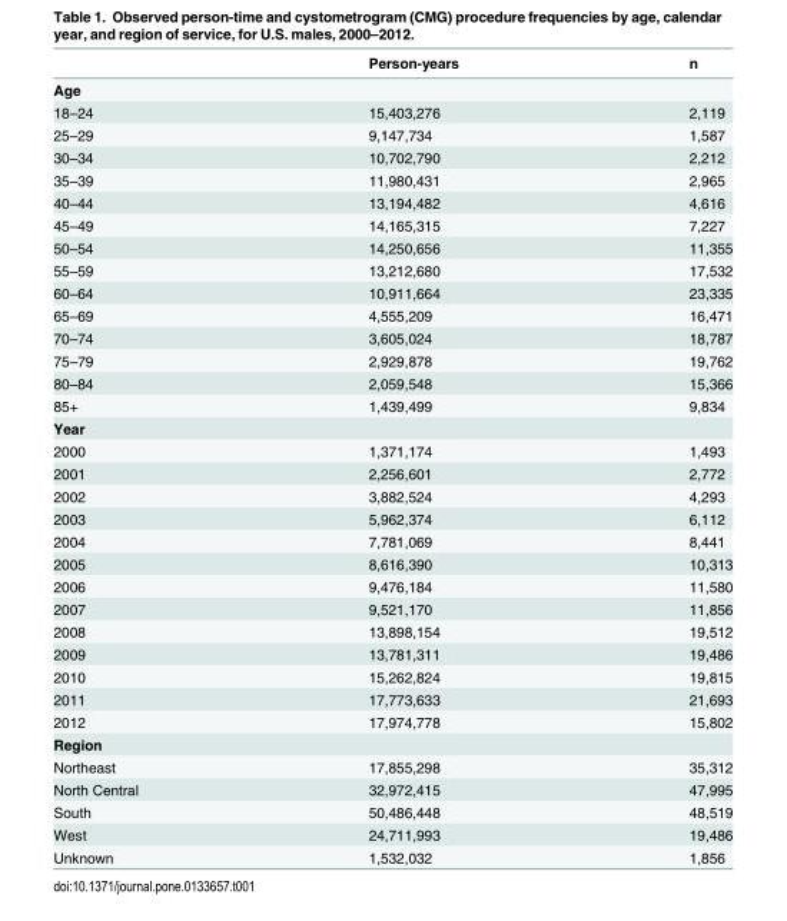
<table><thead><tr><td></td><td>Person-years</td><td>n</td></tr></thead><tbody><tr><td colspan="3">Age</td></tr><tr><td>18–24</td><td>15,403,276</td><td>2,119</td></tr><tr><td>25–29</td><td>9,147,734</td><td>1,587</td></tr><tr><td>30–34</td><td>10,702,790</td><td>2,212</td></tr><tr><td>35–39</td><td>11,980,431</td><td>2,965</td></tr><tr><td>40–44</td><td>13,194,482</td><td>4,616</td></tr><tr><td>45–49</td><td>14,165,315</td><td>7,227</td></tr><tr><td>50–54</td><td>14,250,656</td><td>11,355</td></tr><tr><td>55–59</td><td>13,212,680</td><td>17,532</td></tr><tr><td>60–64</td><td>10,911,664</td><td>23,335</td></tr><tr><td>65–69</td><td>4,555,209</td><td>16,471</td></tr><tr><td>70–74</td><td>3,605,024</td><td>18,787</td></tr><tr><td>75–79</td><td>2,929,878</td><td>19,762</td></tr><tr><td>80–84</td><td>2,059,548</td><td>15,366</td></tr><tr><td>85+</td><td>1,439,499</td><td>9,834</td></tr><tr><td colspan="3">Year</td></tr><tr><td>2000</td><td>1,371,174</td><td>1,493</td></tr><tr><td>2001</td><td>2,256,601</td><td>2,772</td></tr><tr><td>2002</td><td>3,882,524</td><td>4,293</td></tr><tr><td>2003</td><td>5,962,374</td><td>6,112</td></tr><tr><td>2004</td><td>7,781,069</td><td>8,441</td></tr><tr><td>2005</td><td>8,616,390</td><td>10,313</td></tr><tr><td>2006</td><td>9,476,184</td><td>11,580</td></tr><tr><td>2007</td><td>9,521,170</td><td>11,856</td></tr><tr><td>2008</td><td>13,898,154</td><td>19,512</td></tr><tr><td>2009</td><td>13,781,311</td><td>19,486</td></tr><tr><td>2010</td><td>15,262,824</td><td>19,815</td></tr><tr><td>2011</td><td>17,773,633</td><td>21,693</td></tr><tr><td>2012</td><td>17,974,778</td><td>15,802</td></tr><tr><td colspan="3">Region</td></tr><tr><td>Northeast</td><td>17,855,298</td><td>35,312</td></tr><tr><td>North Central</td><td>32,972,415</td><td>47,995</td></tr><tr><td>South</td><td>50,486,448</td><td>48,519</td></tr><tr><td>West</td><td>24,711,993</td><td>19,486</td></tr><tr><td>Unknown</td><td>1,532,032</td><td>1,856</td></tr></tbody></table>